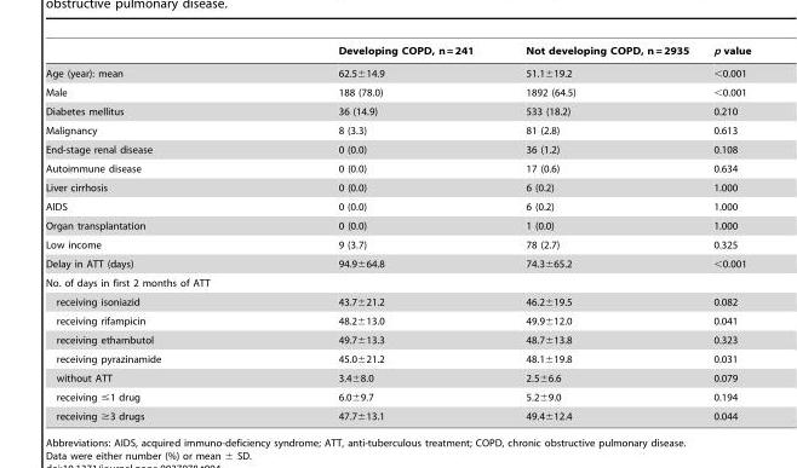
<table><thead><tr><td></td><td>Developing COPD, n = 241</td><td>Not developing COPD, n = 2935</td><td>p value</td></tr></thead><tbody><tr><td>Age (year): mean</td><td>62.5±14.9</td><td>51.1±19.2</td><td>&lt;0.001</td></tr><tr><td>Male</td><td>188 (78.0)</td><td>1892 (64.5)</td><td>&lt;0.001</td></tr><tr><td>Diabetes mellitus</td><td>36 (14.9)</td><td>533 (18.2)</td><td>0.210</td></tr><tr><td>Malignancy</td><td>8 (3.3)</td><td>81 (2.8)</td><td>0.613</td></tr><tr><td>End-stage renal disease</td><td>0 (0.0)</td><td>36 (1.2)</td><td>0.108</td></tr><tr><td>Autoimmune disease</td><td>0 (0.0)</td><td>17 (0.6)</td><td>0.634</td></tr><tr><td>Liver cirrhosis</td><td>0 (0.0)</td><td>6 (0.2)</td><td>1.000</td></tr><tr><td>AIDS</td><td>0 (0.0)</td><td>6 (0.2)</td><td>1.000</td></tr><tr><td>Organ transplantation</td><td>0 (0.0)</td><td>1 (0.0)</td><td>1.000</td></tr><tr><td>Low income</td><td>9 (3.7)</td><td>78 (2.7)</td><td>0.325</td></tr><tr><td>Delay in ATT (days)</td><td>94.9±64.8</td><td>74.3±65.2</td><td>&lt;0.001</td></tr><tr><td colspan="4">No. of days in first 2 months of ATT</td></tr><tr><td>receiving isoniazid</td><td>43.7±21.2</td><td>46.2±19.5</td><td>0.082</td></tr><tr><td>receiving rifampicin</td><td>48.2±13.0</td><td>49.9±12.0</td><td>0.041</td></tr><tr><td>receiving ethambutol</td><td>49.7±13.3</td><td>48.7±13.8</td><td>0.323</td></tr><tr><td>receiving pyrazinamide</td><td>45.0±21.2</td><td>48.1±19.8</td><td>0.031</td></tr><tr><td>without ATT</td><td>3.4±8.0</td><td>2.5±6.6</td><td>0.079</td></tr><tr><td>receiving ≤1 drug</td><td>6.0±9.7</td><td>5.2±9.0</td><td>0.194</td></tr><tr><td>receiving ≥3 drugs</td><td>47.7±13.1</td><td>49.4±12.4</td><td>0.044</td></tr></tbody></table>